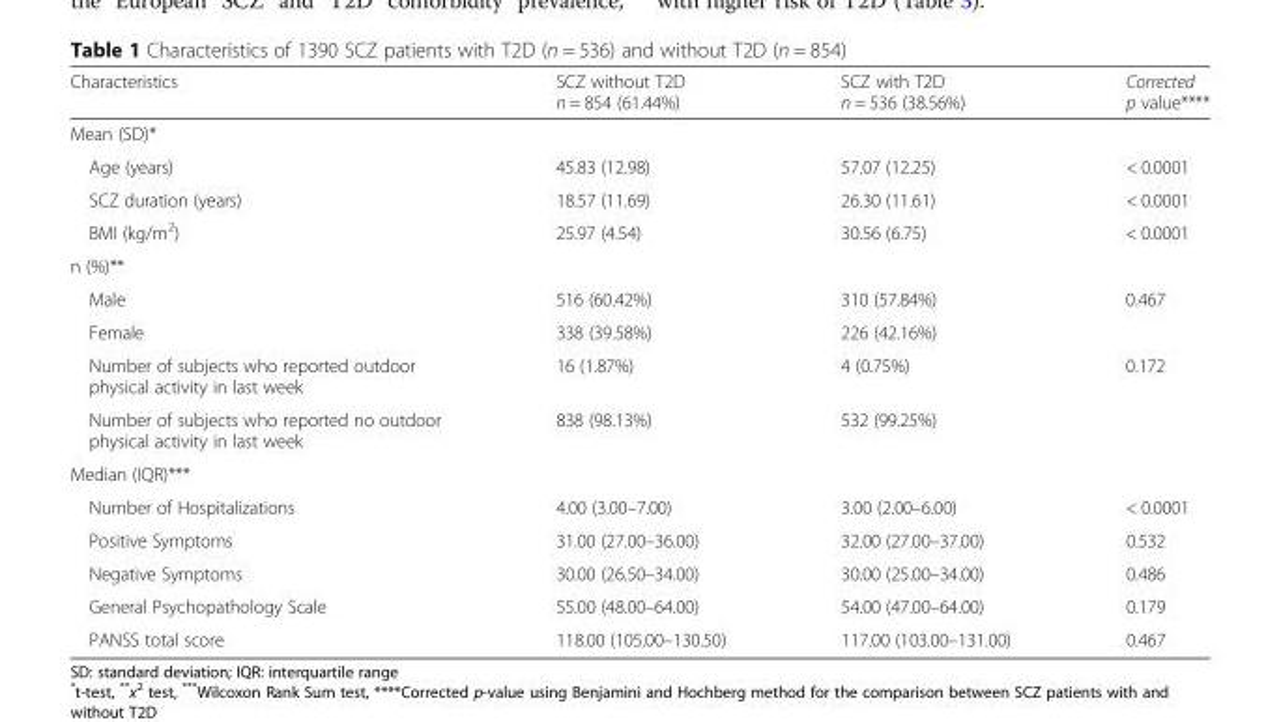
<table><thead><tr><td>Characteristics</td><td>SCZ without T2D n = 854 (61.44%)</td><td>SCZ with T2D n = 536 (38.56%)</td><td>Corrected p value****</td></tr></thead><tbody><tr><td colspan="4">Mean (SD)*</td></tr><tr><td>Age (years)</td><td>45.83 (12.98)</td><td>57.07 (12.25)</td><td>&lt; 0.0001</td></tr><tr><td>SCZ duration (years)</td><td>18.57 (11.69)</td><td>26.30 (11.61)</td><td>&lt; 0.0001</td></tr><tr><td>BMI (kg/m<sup>2</sup>)</td><td>25.97 (4.54)</td><td>30.56 (6.75)</td><td>&lt; 0.0001</td></tr><tr><td colspan="4">n (%)**</td></tr><tr><td>Male</td><td>516 (60.42%)</td><td>310 (57.84%)</td><td rowspan="2">0.467</td></tr><tr><td>Female</td><td>338 (39.58%)</td><td>226 (42.16%)</td></tr><tr><td>Number of subjects who reported outdoor physical activity in last week</td><td>16 (1.87%)</td><td>4 (0.75%)</td><td rowspan="2">0.172</td></tr><tr><td>Number of subjects who reported no outdoor physical activity in last week</td><td>838 (98.13%)</td><td>532 (99.25%)</td></tr><tr><td colspan="4">Median (IQR)***</td></tr><tr><td>Number of Hospitalizations</td><td>4.00 (3.00–7.00)</td><td>3.00 (2.00–6.00)</td><td>&lt; 0.0001</td></tr><tr><td>Positive Symptoms</td><td>31.00 (27.00–36.00)</td><td>32.00 (27.00–37.00)</td><td>0.532</td></tr><tr><td>Negative Symptoms</td><td>30.00 (26.50–34.00)</td><td>30.00 (25.00–34.00)</td><td>0.486</td></tr><tr><td>General Psychopathology Scale</td><td>55.00 (48.00–64.00)</td><td>54.00 (47.00–64.00)</td><td>0.179</td></tr><tr><td>PANSS total score</td><td>118.00 (105.00–130.50)</td><td>117.00 (103.00–131.00)</td><td>0.467</td></tr></tbody></table>